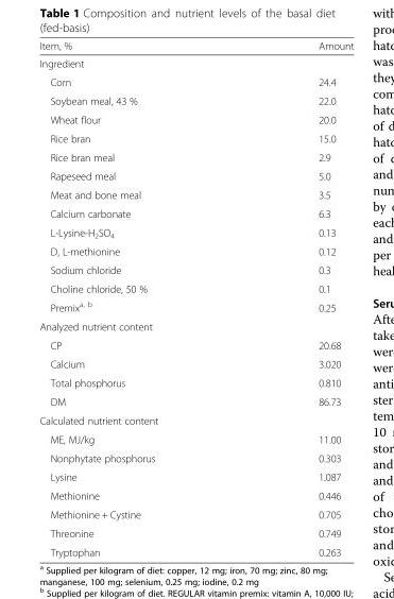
<table><thead><tr><td>Item, %</td><td>Amount</td></tr></thead><tbody><tr><td colspan="2">Ingredient</td></tr><tr><td>Corn</td><td>24.4</td></tr><tr><td>Soybean meal, 43 %</td><td>22.0</td></tr><tr><td>Wheat flour</td><td>20.0</td></tr><tr><td>Rice bran</td><td>15.0</td></tr><tr><td>Rice bran meal</td><td>2.9</td></tr><tr><td>Rapeseed meal</td><td>5.0</td></tr><tr><td>Meat and bone meal</td><td>3.5</td></tr><tr><td>Calcium carbonate</td><td>6.3</td></tr><tr><td>L-Lysine-H<sub>2</sub>SO<sub>4</sub></td><td>0.13</td></tr><tr><td>D, L-methionine</td><td>0.12</td></tr><tr><td>Sodium chloride</td><td>0.3</td></tr><tr><td>Choline chloride, 50 %</td><td>0.1</td></tr><tr><td>Premix<sup>a, b</sup></td><td>0.25</td></tr><tr><td colspan="2">Analyzed nutrient content</td></tr><tr><td>CP</td><td>20.68</td></tr><tr><td>Calcium</td><td>3.020</td></tr><tr><td>Total phosphorus</td><td>0.810</td></tr><tr><td>DM</td><td>86.73</td></tr><tr><td colspan="2">Calculated nutrient content</td></tr><tr><td>ME, MJ/kg</td><td>11.00</td></tr><tr><td>Nonphytate phosphorus</td><td>0.303</td></tr><tr><td>Lysine</td><td>1.087</td></tr><tr><td>Methionine</td><td>0.446</td></tr><tr><td>Methionine + Cystine</td><td>0.705</td></tr><tr><td>Threonine</td><td>0.749</td></tr><tr><td>Tryptophan</td><td>0.263</td></tr></tbody></table>